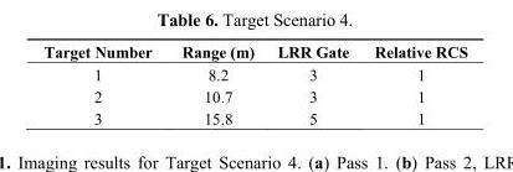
<table><thead><tr><td>Target Number</td><td>Range (m)</td><td>LRR Gate</td><td>Relative RCS</td></tr></thead><tbody><tr><td>1</td><td>8.2</td><td>3</td><td>1</td></tr><tr><td>2</td><td>10.7</td><td>3</td><td>1</td></tr><tr><td>3</td><td>15.8</td><td>5</td><td>1</td></tr></tbody></table>